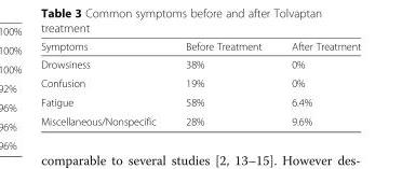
<table><thead><tr><td>Symptoms</td><td>Before Treatment</td><td>After Treatment</td></tr></thead><tbody><tr><td>Drowsiness</td><td>38%</td><td>0%</td></tr><tr><td>Confusion</td><td>19%</td><td>0%</td></tr><tr><td>Fatigue</td><td>58%</td><td>6.4%</td></tr><tr><td>Miscellaneous/Nonspecific</td><td>28%</td><td>9.6%</td></tr></tbody></table>